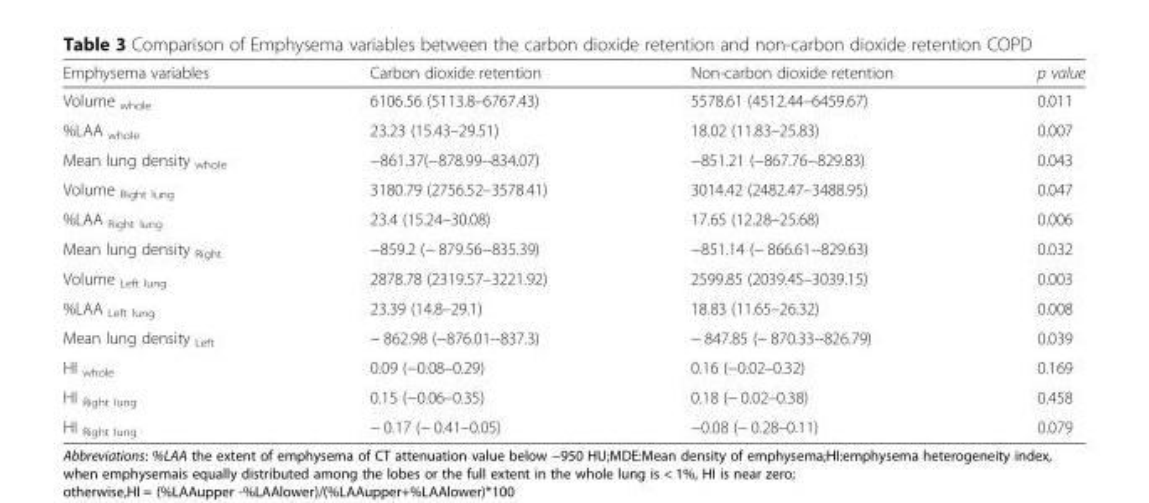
<table><thead><tr><td>Emphysema variables</td><td>Carbon dioxide retention</td><td>Non-carbon dioxide retention</td><td>p value</td></tr></thead><tbody><tr><td>Volume <sub>whole</sub></td><td>6106.56 (5113.8–6767.43)</td><td>5578.61 (4512.44–6459.67)</td><td>0.011</td></tr><tr><td>%LAA <sub>whole</sub></td><td>23.23 (15.43–29.51)</td><td>18.02 (11.83–25.83)</td><td>0.007</td></tr><tr><td>Mean lung density <sub>whole</sub></td><td>−861.37(−878.99--834.07)</td><td>−851.21 (−867.76--829.83)</td><td>0.043</td></tr><tr><td>Volume <sub>Right lung</sub></td><td>3180.79 (2756.52–3578.41)</td><td>3014.42 (2482.47–3488.95)</td><td>0.047</td></tr><tr><td>%LAA <sub>Right lung</sub></td><td>23.4 (15.24–30.08)</td><td>17.65 (12.28–25.68)</td><td>0.006</td></tr><tr><td>Mean lung density <sub>Right</sub></td><td>−859.2 (− 879.56--835.39)</td><td>−851.14 (− 866.61--829.63)</td><td>0.032</td></tr><tr><td>Volume <sub>Left lung</sub></td><td>2878.78 (2319.57–3221.92)</td><td>2599.85 (2039.45–3039.15)</td><td>0.003</td></tr><tr><td>%LAA <sub>Left lung</sub></td><td>23.39 (14.8–29.1)</td><td>18.83 (11.65–26.32)</td><td>0.008</td></tr><tr><td>Mean lung density <sub>Left</sub></td><td>− 862.98 (−876.01--837.3)</td><td>− 847.85 (− 870.33--826.79)</td><td>0.039</td></tr><tr><td>HI <sub>whole</sub></td><td>0.09 (−0.08–0.29)</td><td>0.16 (−0.02–0.32)</td><td>0.169</td></tr><tr><td>HI <sub>Right lung</sub></td><td>0.15 (−0.06–0.35)</td><td>0.18 (− 0.02–0.38)</td><td>0.458</td></tr><tr><td>HI <sub>Right lung</sub></td><td>− 0.17 (− 0.41–0.05)</td><td>−0.08 (− 0.28–0.11)</td><td>0.079</td></tr></tbody></table>